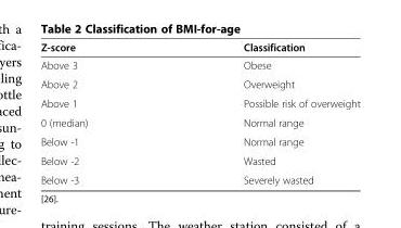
<table><thead><tr><td>Z-score</td><td>Classification</td></tr></thead><tbody><tr><td>Above 3</td><td>Obese</td></tr><tr><td>Above 2</td><td>Overweight</td></tr><tr><td>Above 1</td><td>Possible risk of overweight</td></tr><tr><td>0 (median)</td><td>Normal range</td></tr><tr><td>Below -1</td><td>Normal range</td></tr><tr><td>Below -2</td><td>Wasted</td></tr><tr><td>Below -3</td><td>Severely wasted</td></tr></tbody></table>